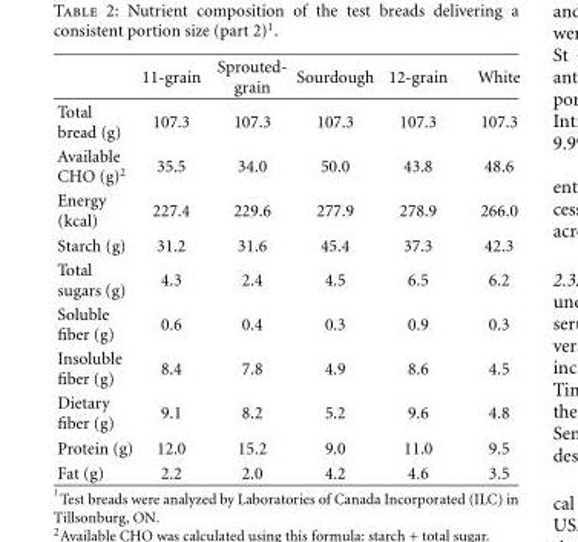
<table><thead><tr><td></td><td>11-grain</td><td>Sprouted- grain</td><td>Sourdough</td><td>12-grain</td><td>White</td></tr></thead><tbody><tr><td>Total bread (g)</td><td>107.3</td><td>107.3</td><td>107.3</td><td>107.3</td><td>107.3</td></tr><tr><td>Available CHO (g)<sup>2</sup></td><td>35.5</td><td>34.0</td><td>50.0</td><td>43.8</td><td>48.6</td></tr><tr><td>Energy (kcal)</td><td>227.4</td><td>229.6</td><td>277.9</td><td>278.9</td><td>266.0</td></tr><tr><td>Starch (g)</td><td>31.2</td><td>31.6</td><td>45.4</td><td>37.3</td><td>42.3</td></tr><tr><td>Total sugars (g)</td><td>4.3</td><td>2.4</td><td>4.5</td><td>6.5</td><td>6.2</td></tr><tr><td>Soluble fiber (g)</td><td>0.6</td><td>0.4</td><td>0.3</td><td>0.9</td><td>0.3</td></tr><tr><td>Insoluble fiber (g)</td><td>8.4</td><td>7.8</td><td>4.9</td><td>8.6</td><td>4.5</td></tr><tr><td>Dietary fiber (g)</td><td>9.1</td><td>8.2</td><td>5.2</td><td>9.6</td><td>4.8</td></tr><tr><td>Protein (g)</td><td>12.0</td><td>15.2</td><td>9.0</td><td>11.0</td><td>9.5</td></tr><tr><td>Fat (g)</td><td>2.2</td><td>2.0</td><td>4.2</td><td>4.6</td><td>3.5</td></tr></tbody></table>